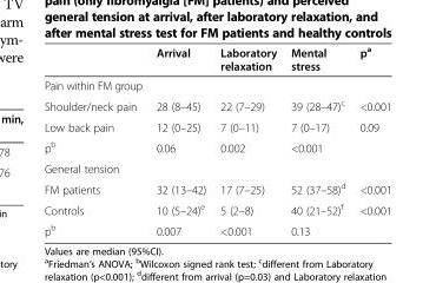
<table><thead><tr><td></td><td>Arrival</td><td>Laboratory relaxation</td><td>Mental stress</td><td>p<sup>a</sup></td></tr></thead><tbody><tr><td colspan="5">Pain within FM group</td></tr><tr><td>Shoulder/neck pain</td><td>28 (8–45)</td><td>22 (7–29)</td><td>39 (28–47)<sup>c</sup></td><td>&lt;0.001</td></tr><tr><td>Low back pain</td><td>12 (0–25)</td><td>7 (0–11)</td><td>7 (0–17)</td><td>0.09</td></tr><tr><td>p<sup>b</sup></td><td>0.06</td><td>0.002</td><td>&lt;0.001</td><td></td></tr><tr><td colspan="5">General tension</td></tr><tr><td>FM patients</td><td>32 (13–42)</td><td>17 (7–25)</td><td>52 (37–58)<sup>d</sup></td><td>&lt;0.001</td></tr><tr><td>Controls</td><td>10 (5–24)<sup>e</sup></td><td>5 (2–8)</td><td>40 (21–52)<sup>f</sup></td><td>&lt;0.001</td></tr><tr><td>p<sup>b</sup></td><td>0.007</td><td>&lt;0.001</td><td>0.13</td><td></td></tr></tbody></table>